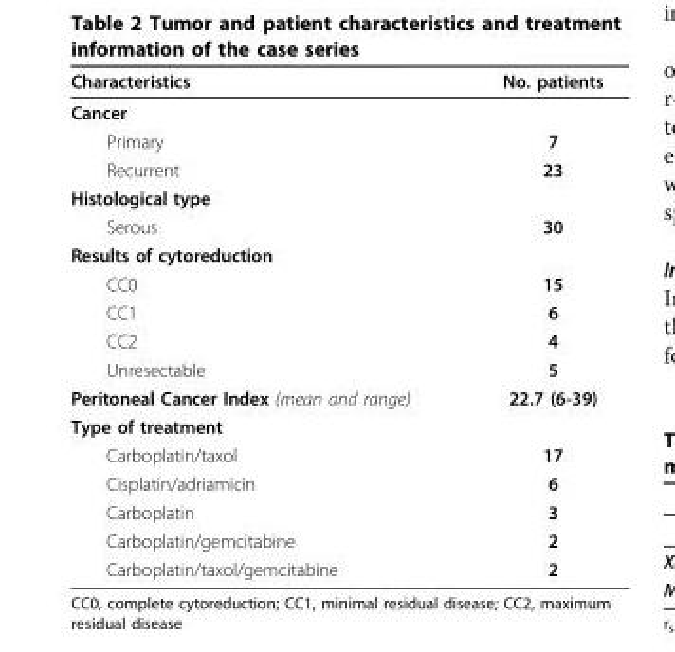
<table><thead><tr><td>Characteristics</td><td>No. patients</td></tr></thead><tbody><tr><td colspan="2">Cancer</td></tr><tr><td>Primary</td><td>7</td></tr><tr><td>Recurrent</td><td>23</td></tr><tr><td colspan="2">Histological type</td></tr><tr><td>Serous</td><td>30</td></tr><tr><td colspan="2">Results of cytoreduction</td></tr><tr><td>CC0</td><td>15</td></tr><tr><td>CC1</td><td>6</td></tr><tr><td>CC2</td><td>4</td></tr><tr><td>Unresectable</td><td>5</td></tr><tr><td>Peritoneal Cancer Index (mean and range)</td><td>22.7 (6-39)</td></tr><tr><td colspan="2">Type of treatment</td></tr><tr><td>Carboplatin/taxol</td><td>17</td></tr><tr><td>Cisplatin/adriamicin</td><td>6</td></tr><tr><td>Carboplatin</td><td>3</td></tr><tr><td>Carboplatin/gemcitabine</td><td>2</td></tr><tr><td>Carboplatin/taxol/gemcitabine</td><td>2</td></tr></tbody></table>